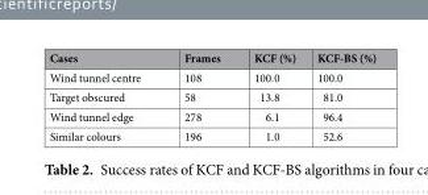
<table><thead><tr><td>Cases</td><td>Frames</td><td>KCF (%)</td><td>KCF-BS (%)</td></tr></thead><tbody><tr><td>Wind tunnel centre</td><td>108</td><td>100.0</td><td>100.0</td></tr><tr><td>Target obscured</td><td>58</td><td>13.8</td><td>81.0</td></tr><tr><td>Wind tunnel edge</td><td>278</td><td>6.1</td><td>96.4</td></tr><tr><td>Similar colours</td><td>196</td><td>1.0</td><td>52.6</td></tr></tbody></table>